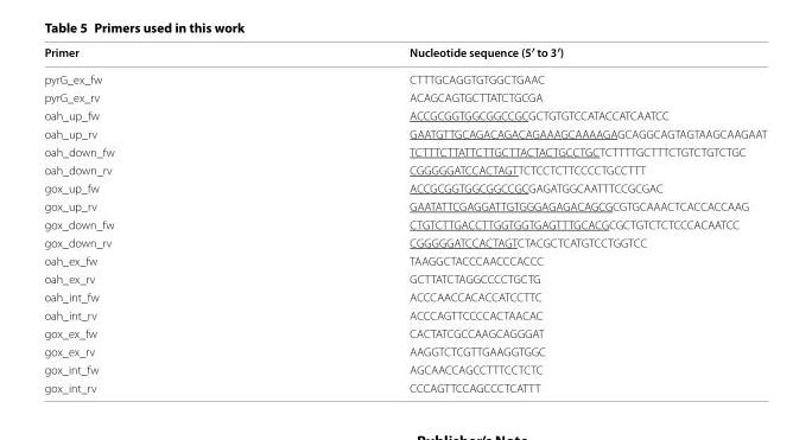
<table><thead><tr><td>Primer</td><td>Nucleotide sequence (5′ to 3′)</td></tr></thead><tbody><tr><td>pyrG_ex_fw</td><td>CTTTGCAGGTGTGGCTGAAC</td></tr><tr><td>pyrG_ex_rv</td><td>ACAGCAGTGCTTATCTGCGA</td></tr><tr><td>oah_up_fw</td><td>ACCGCGGTGGCGGCCGCGCTGTGTCCATACCATCAATCC</td></tr><tr><td>oah_up_rv</td><td>GAATGTTGCAGACAGACAGAAAGCAAAAGAGCAGGCAGTAGTAAGCAAGAAT</td></tr><tr><td>oah_down_fw</td><td>TCTTTCTTATTCTTGCTTACTACTGCCTGCTCTTTTGCTTTCTGTCTGTCTGC</td></tr><tr><td>oah_down_rv</td><td>CGGGGGATCCACTAGTTCTCCTCTTCCCCTGCCTTT</td></tr><tr><td>gox_up_fw</td><td>ACCGCGGTGGCGGCCGCGAGATGGCAATTTCCGCGAC</td></tr><tr><td>gox_up_rv</td><td>GAATATTCGAGGATTGTGGGAGAGACAGCGCGTGCAAACTCACCACCAAG</td></tr><tr><td>gox_down_fw</td><td>CTGTCTTGACCTTGGTGGTGAGTTTGCACGCGCTGTCTCTCCCACAATCC</td></tr><tr><td>gox_down_rv</td><td>CGGGGGATCCACTAGTCTACGCTCATGTCCTGGTCC</td></tr><tr><td>oah_ex_fw</td><td>TAAGGCTACCCAACCCACCC</td></tr><tr><td>oah_ex_rv</td><td>GCTTATCTAGGCCCCTGCTG</td></tr><tr><td>oah_int_fw</td><td>ACCCAACCACACCATCCTTC</td></tr><tr><td>oah_int_rv</td><td>ACCCAGTTCCCCACTAACAC</td></tr><tr><td>gox_ex_fw</td><td>CACTATCGCCAAGCAGGGAT</td></tr><tr><td>gox_ex_rv</td><td>AAGGTCTCGTTGAAGGTGGC</td></tr><tr><td>gox_int_fw</td><td>AGCAACCAGCCTTTCCTCTC</td></tr><tr><td>gox_int_rv</td><td>CCCAGTTCCAGCCCTCATTT</td></tr></tbody></table>